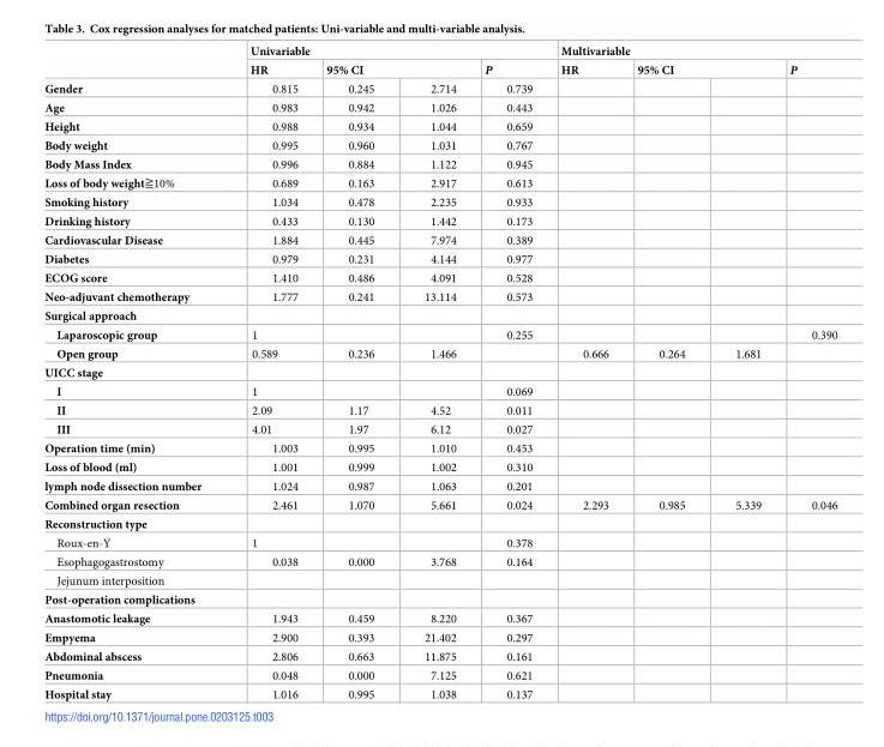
<table><thead><tr><td rowspan="3">Gender</td><td colspan="4">Univariable</td><td colspan="4">Multivariable</td></tr><tr><td rowspan="2">HR 0.815</td><td colspan="2">95% CI</td><td rowspan="2">P 0.739</td><td rowspan="2">HR</td><td colspan="2">95% CI</td><td rowspan="2">P</td></tr><tr><td>0.245</td><td>2.714</td><td></td><td></td></tr></thead><tbody><tr><td>Age</td><td>0.983</td><td>0.942</td><td>1.026</td><td>0.443</td><td></td><td></td><td></td><td></td></tr><tr><td>Height</td><td>0.988</td><td>0.934</td><td>1.044</td><td>0.659</td><td></td><td></td><td></td><td></td></tr><tr><td>Body weight</td><td>0.995</td><td>0.960</td><td>1.031</td><td>0.767</td><td></td><td></td><td></td><td></td></tr><tr><td>Body Mass Index</td><td>0.996</td><td>0.884</td><td>1.122</td><td>0.945</td><td></td><td></td><td></td><td></td></tr><tr><td>Loss of body weight≧10%</td><td>0.689</td><td>0.163</td><td>2.917</td><td>0.613</td><td></td><td></td><td></td><td></td></tr><tr><td>Smoking history</td><td>1.034</td><td>0.478</td><td>2.235</td><td>0.933</td><td></td><td></td><td></td><td></td></tr><tr><td>Drinking history</td><td>0.433</td><td>0.130</td><td>1.442</td><td>0.173</td><td></td><td></td><td></td><td></td></tr><tr><td>Cardiovascular Disease</td><td>1.884</td><td>0.445</td><td>7.974</td><td>0.389</td><td></td><td></td><td></td><td></td></tr><tr><td>Diabetes</td><td>0.979</td><td>0.231</td><td>4.144</td><td>0.977</td><td></td><td></td><td></td><td></td></tr><tr><td>ECOG score</td><td>1.410</td><td>0.486</td><td>4.091</td><td>0.528</td><td></td><td></td><td></td><td></td></tr><tr><td>Neo-adjuvant chemotherapy</td><td>1.777</td><td>0.241</td><td>13.114</td><td>0.573</td><td></td><td></td><td></td><td></td></tr><tr><td colspan="9">Surgical approach</td></tr><tr><td>Laparoscopic group</td><td>1</td><td></td><td></td><td>0.255</td><td></td><td></td><td></td><td>0.390</td></tr><tr><td>Open group</td><td>0.589</td><td>0.236</td><td>1.466</td><td></td><td>0.666</td><td>0.264</td><td>1.681</td><td></td></tr><tr><td colspan="9">UICC stage</td></tr><tr><td>I</td><td>1</td><td></td><td></td><td>0.069</td><td></td><td></td><td></td><td></td></tr><tr><td>II</td><td>2.09</td><td>1.17</td><td>4.52</td><td>0.011</td><td></td><td></td><td></td><td></td></tr><tr><td>III</td><td>4.01</td><td>1.97</td><td>6.12</td><td>0.027</td><td></td><td></td><td></td><td></td></tr><tr><td>Operation time (min)</td><td>1.003</td><td>0.995</td><td>1.010</td><td>0.453</td><td></td><td></td><td></td><td></td></tr><tr><td>Loss of blood (ml)</td><td>1.001</td><td>0.999</td><td>1.002</td><td>0.310</td><td></td><td></td><td></td><td></td></tr><tr><td>lymph node dissection number</td><td>1.024</td><td>0.987</td><td>1.063</td><td>0.201</td><td></td><td></td><td></td><td></td></tr><tr><td>Combined organ resection</td><td>2.461</td><td>1.070</td><td>5.661</td><td>0.024</td><td>2.293</td><td>0.985</td><td>5.339</td><td>0.046</td></tr><tr><td colspan="9">Reconstruction type</td></tr><tr><td>Roux-en-Y</td><td>1</td><td></td><td></td><td>0.378</td><td></td><td></td><td></td><td></td></tr><tr><td>Esophagogastrostomy</td><td>0.038</td><td>0.000</td><td>3.768</td><td>0.164</td><td></td><td></td><td></td><td></td></tr><tr><td colspan="9">Jejunum interposition</td></tr><tr><td colspan="9">Post-operation complications</td></tr><tr><td>Anastomotic leakage</td><td>1.943</td><td>0.459</td><td>8.220</td><td>0.367</td><td></td><td></td><td></td><td></td></tr><tr><td>Empyema</td><td>2.900</td><td>0.393</td><td>21.402</td><td>0.297</td><td></td><td></td><td></td><td></td></tr><tr><td>Abdominal abscess</td><td>2.806</td><td>0.663</td><td>11.875</td><td>0.161</td><td></td><td></td><td></td><td></td></tr><tr><td>Pneumonia</td><td>0.048</td><td>0.000</td><td>7.125</td><td>0.621</td><td></td><td></td><td></td><td></td></tr><tr><td>Hospital stay</td><td>1.016</td><td>0.995</td><td>1.038</td><td>0.137</td><td></td><td></td><td></td><td></td></tr></tbody></table>